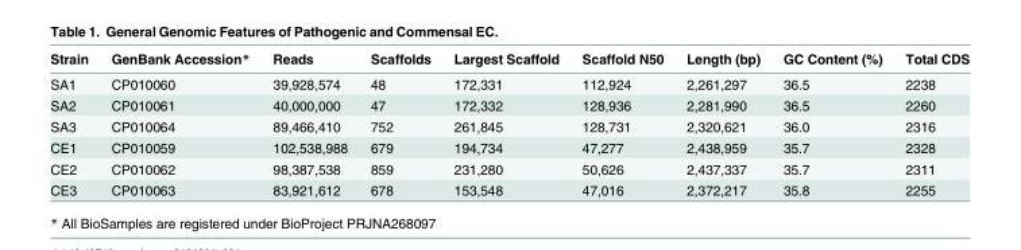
<table><thead><tr><td>Strain</td><td>GenBank Accession*</td><td>Reads</td><td>Scaffolds</td><td>Largest Scaffold</td><td>Scaffold N50</td><td>Length (bp)</td><td>GC Content (%)</td><td>Total CDS</td></tr></thead><tbody><tr><td>SA1</td><td>CP010060</td><td>39,928,574</td><td>48</td><td>172,331</td><td>112,924</td><td>2,261,297</td><td>36.5</td><td>2238</td></tr><tr><td>SA2</td><td>CP010061</td><td>40,000,000</td><td>47</td><td>172,332</td><td>128,936</td><td>2,281,990</td><td>36.5</td><td>2260</td></tr><tr><td>SA3</td><td>CP010064</td><td>89,466,410</td><td>752</td><td>261,845</td><td>128,731</td><td>2,320,621</td><td>36.0</td><td>2316</td></tr><tr><td>CE1</td><td>CP010059</td><td>102,538,988</td><td>679</td><td>194,734</td><td>47,277</td><td>2,438,959</td><td>35.7</td><td>2328</td></tr><tr><td>CE2</td><td>CP010062</td><td>98,387,538</td><td>859</td><td>231,280</td><td>50,626</td><td>2,437,337</td><td>35.7</td><td>2311</td></tr><tr><td>CE3</td><td>CP010063</td><td>83,921,612</td><td>678</td><td>153,548</td><td>47,016</td><td>2,372,217</td><td>35.8</td><td>2255</td></tr></tbody></table>